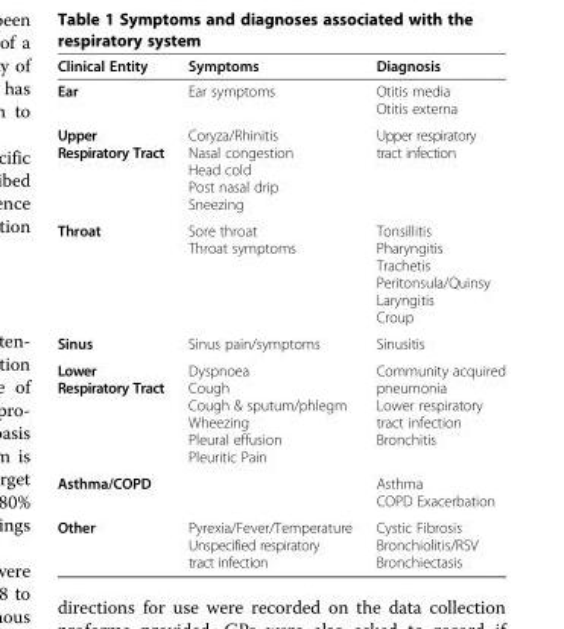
<table><thead><tr><td>Clinical Entity</td><td>Symptoms</td><td>Diagnosis</td></tr></thead><tbody><tr><td>Ear</td><td>Ear symptoms</td><td>Otitis media Otitis externa</td></tr><tr><td>Upper Respiratory Tract</td><td>Coryza/Rhinitis Nasal congestion Head cold Post nasal drip Sneezing</td><td>Upper respiratory tract infection</td></tr><tr><td>Throat</td><td>Sore throat Throat symptoms</td><td>Tonsillitis Pharyngitis Trachetis Peritonsula/Quinsy Laryngitis Croup</td></tr><tr><td>Sinus</td><td>Sinus pain/symptoms</td><td>Sinusitis</td></tr><tr><td>Lower Respiratory Tract</td><td>Dyspnoea Cough Cough &amp; sputum/phlegm Wheezing Pleural effusion Pleuritic Pain</td><td>Community acquired pneumonia Lower respiratory tract infection Bronchitis</td></tr><tr><td>Asthma/COPD</td><td></td><td>Asthma COPD Exacerbation</td></tr><tr><td>Other</td><td>Pyrexia/Fever/Temperature Unspecified respiratory tract infection</td><td>Cystic Fibrosis Bronchiolitis/RSV Bronchiectasis</td></tr></tbody></table>